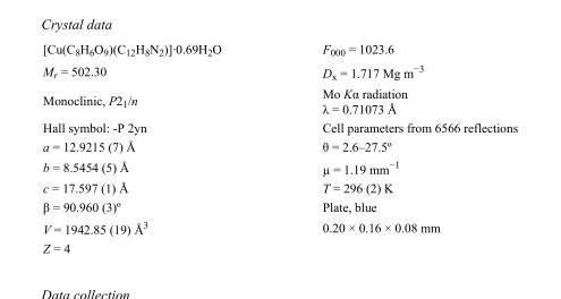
<table><tbody><tr><td>[Cu(C<sub>8</sub>H<sub>6</sub>O<sub>9</sub>)(C<sub>12</sub>H<sub>8</sub>N<sub>2</sub>)]·0.69H<sub>2</sub>O</td><td>F000 = 1023.6</td></tr><tr><td>M<sub>r</sub> = 502.30</td><td>D<sub>x</sub> = 1.717 Mg m<sup>−3</sup></td></tr><tr><td>Monoclinic, P2<sub>1</sub>/n</td><td>Mo Kα radiation λ = 0.71073 Å</td></tr><tr><td>Hall symbol: -P 2yn</td><td>Cell parameters from 6566 reflections</td></tr><tr><td>a = 12.9215 (7) Å</td><td>θ = 2.6–27.5º</td></tr><tr><td>b = 8.5454 (5) Å</td><td>µ = 1.19 mm<sup>−1</sup></td></tr><tr><td>c = 17.597 (1) Å</td><td>T = 296 (2) K</td></tr><tr><td>β = 90.960 (3)º</td><td>Plate, blue</td></tr><tr><td>V = 1942.85 (19) Å<sup>3</sup></td><td>0.20 × 0.16 × 0.08 mm</td></tr><tr><td>Z = 4</td><td></td></tr></tbody></table>